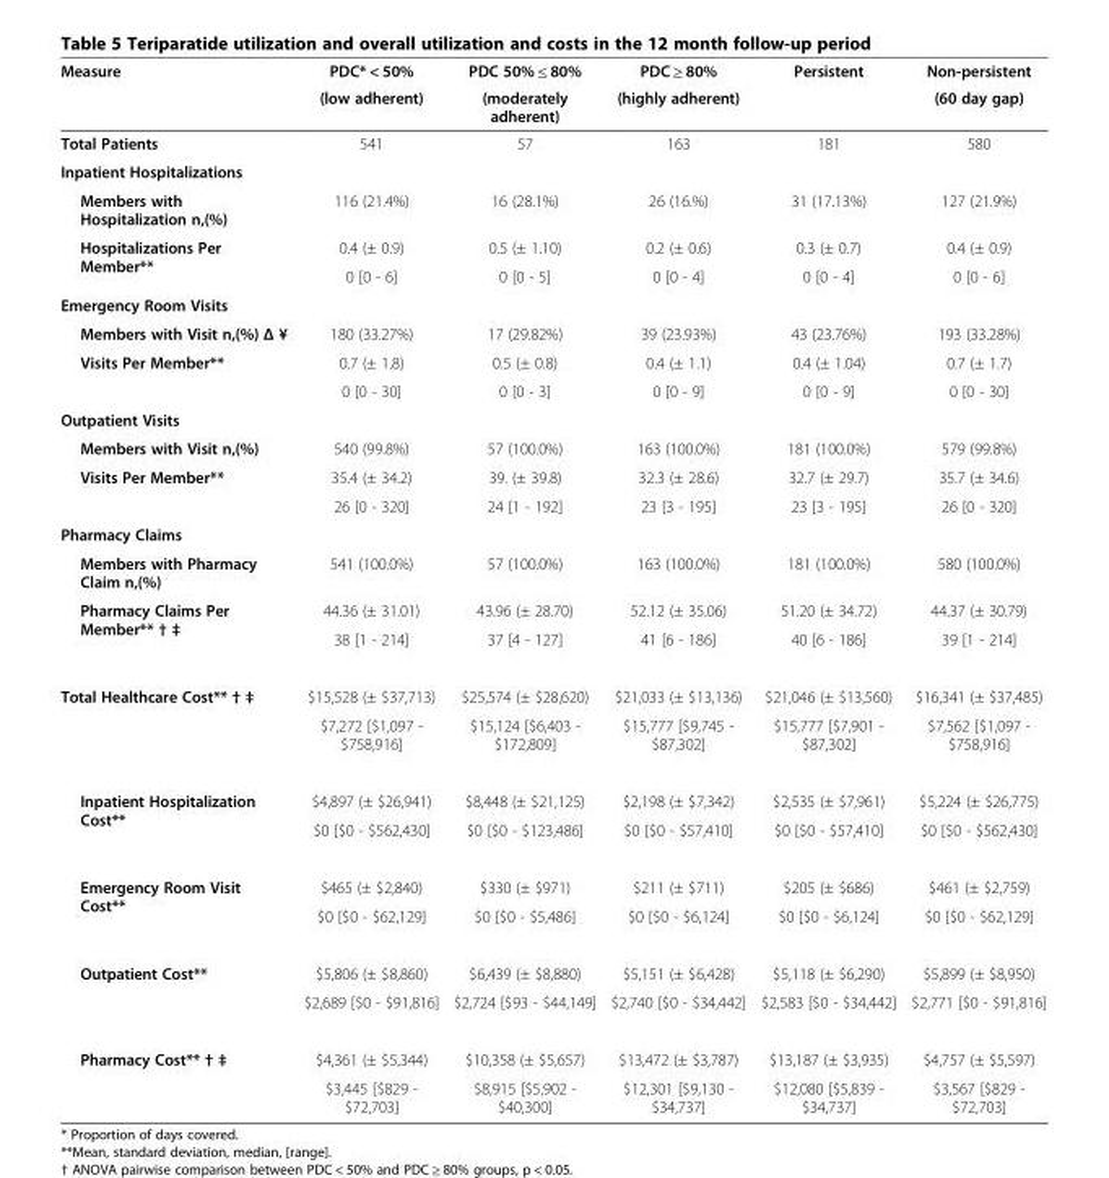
<table><thead><tr><td rowspan="2">Measure</td><td rowspan="2">PDC* &lt; 50% (low adherent)</td><td rowspan="2">PDC 50% ≤ 80% (moderately adherent)</td><td rowspan="2">PDC ≥ 80% (highly adherent)</td><td rowspan="2">Persistent</td><td rowspan="2">Non-persistent (60 day gap)</td></tr><tr></tr></thead><tbody><tr><td>Total Patients</td><td>541</td><td>57</td><td>163</td><td>181</td><td>580</td></tr><tr><td colspan="6">Inpatient Hospitalizations</td></tr><tr><td>Members with Hospitalization n,(%)</td><td>116 (21.4%)</td><td>16 (28.1%)</td><td>26 (16.%)</td><td>31 (17.13%)</td><td>127 (21.9%)</td></tr><tr><td rowspan="2">Hospitalizations Per Member**</td><td>0.4 (± 0.9)</td><td>0.5 (± 1.10)</td><td>0.2 (± 0.6)</td><td>0.3 (± 0.7)</td><td>0.4 (± 0.9)</td></tr><tr><td>0 [0 - 6]</td><td>0 [0 - 5]</td><td>0 [0 - 4]</td><td>0 [0 - 4]</td><td>0 [0 - 6]</td></tr><tr><td colspan="6">Emergency Room Visits</td></tr><tr><td>Members with Visit n,(%) Δ ¥</td><td>180 (33.27%)</td><td>17 (29.82%)</td><td>39 (23.93%)</td><td>43 (23.76%)</td><td>193 (33.28%)</td></tr><tr><td rowspan="2">Visits Per Member**</td><td>0.7 (± 1.8)</td><td>0.5 (± 0.8)</td><td>0.4 (± 1.1)</td><td>0.4 (± 1.04)</td><td>0.7 (± 1.7)</td></tr><tr><td>0 [0 - 30]</td><td>0 [0 - 3]</td><td>0 [0 - 9]</td><td>0 [0 - 9]</td><td>0 [0 - 30]</td></tr><tr><td colspan="6">Outpatient Visits</td></tr><tr><td>Members with Visit n,(%)</td><td>540 (99.8%)</td><td>57 (100.0%)</td><td>163 (100.0%)</td><td>181 (100.0%)</td><td>579 (99.8%)</td></tr><tr><td rowspan="2">Visits Per Member**</td><td>35.4 (± 34.2)</td><td>39. (± 39.8)</td><td>32.3 (± 28.6)</td><td>32.7 (± 29.7)</td><td>35.7 (± 34.6)</td></tr><tr><td>26 [0 - 320]</td><td>24 [1 - 192]</td><td>23 [3 - 195]</td><td>23 [3 - 195]</td><td>26 [0 - 320]</td></tr><tr><td colspan="6">Pharmacy Claims</td></tr><tr><td>Members with Pharmacy Claim n,(%)</td><td>541 (100.0%)</td><td>57 (100.0%)</td><td>163 (100.0%)</td><td>181 (100.0%)</td><td>580 (100.0%)</td></tr><tr><td rowspan="2">Pharmacy Claims Per Member** † ‡</td><td>44.36 (± 31.01)</td><td>43.96 (± 28.70)</td><td>52.12 (± 35.06)</td><td>51.20 (± 34.72)</td><td>44.37 (± 30.79)</td></tr><tr><td>38 [1 - 214]</td><td>37 [4 - 127]</td><td>41 [6 - 186]</td><td>40 [6 - 186]</td><td>39 [1 - 214]</td></tr><tr><td rowspan="2">Total Healthcare Cost** † ‡</td><td>$15,528 (± $37,713)</td><td>$25,574 (± $28,620)</td><td>$21,033 (± $13,136)</td><td>$21,046 (± $13,560)</td><td>$16,341 (± $37,485)</td></tr><tr><td>$7,272 [$1,097 - $758,916]</td><td>$15,124 [$6,403 - $172,809]</td><td>$15,777 [$9,745 - $87,302]</td><td>$15,777 [$7,901 - $87,302]</td><td>$7,562 [$1,097 - $758,916]</td></tr><tr><td rowspan="2">Inpatient Hospitalization Cost**</td><td>$4,897 (± $26,941)</td><td>$8,448 (± $21,125)</td><td>$2,198 (± $7,342)</td><td>$2,535 (± $7,961)</td><td>$5,224 (± $26,775)</td></tr><tr><td>$0 [$0 - $562,430]</td><td>$0 [$0 - $123,486]</td><td>$0 [$0 - $57,410]</td><td>$0 [$0 - $57,410]</td><td>$0 [$0 - $562,430]</td></tr><tr><td rowspan="2">Emergency Room Visit Cost**</td><td>$465 (± $2,840)</td><td>$330 (± $971)</td><td>$211 (± $711)</td><td>$205 (± $686)</td><td>$461 (± $2,759)</td></tr><tr><td>$0 [$0 - $62,129]</td><td>$0 [$0 - $5,486]</td><td>$0 [$0 - $6,124]</td><td>$0 [$0 - $6,124]</td><td>$0 [$0 - $62,129]</td></tr><tr><td rowspan="2">Outpatient Cost**</td><td>$5,806 (± $8,860)</td><td>$6,439 (± $8,880)</td><td>$5,151 (± $6,428)</td><td>$5,118 (± $6,290)</td><td>$5,899 (± $8,950)</td></tr><tr><td>$2,689 [$0 - $91,816]</td><td>$2,724 [$93 - $44,149]</td><td>$2,740 [$0 - $34,442]</td><td>$2,583 [$0 - $34,442]</td><td>$2,771 [$0 - $91,816]</td></tr><tr><td rowspan="2">Pharmacy Cost** † ‡</td><td>$4,361 (± $5,344)</td><td>$10,358 (± $5,657)</td><td>$13,472 (± $3,787)</td><td>$13,187 (± $3,935)</td><td>$4,757 (± $5,597)</td></tr><tr><td>$3,445 [$829 - $72,703]</td><td>$8,915 [$5,902 - $40,300]</td><td>$12,301 [$9,130 - $34,737]</td><td>$12,080 [$5,839 - $34,737]</td><td>$3,567 [$829 - $72,703]</td></tr></tbody></table>